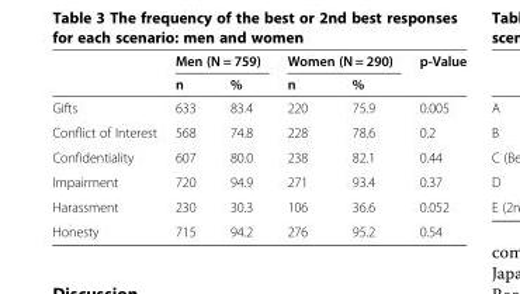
<table><thead><tr><td rowspan="2"></td><td colspan="2">Men (N = 759)</td><td colspan="2">Women (N = 290)</td><td rowspan="2">p-Value</td></tr><tr><td>n</td><td>%</td><td>n</td><td>%</td></tr></thead><tbody><tr><td>Gifts</td><td>633</td><td>83.4</td><td>220</td><td>75.9</td><td>0.005</td></tr><tr><td>Conflict of Interest</td><td>568</td><td>74.8</td><td>228</td><td>78.6</td><td>0.2</td></tr><tr><td>Confidentiality</td><td>607</td><td>80.0</td><td>238</td><td>82.1</td><td>0.44</td></tr><tr><td>Impairment</td><td>720</td><td>94.9</td><td>271</td><td>93.4</td><td>0.37</td></tr><tr><td>Harassment</td><td>230</td><td>30.3</td><td>106</td><td>36.6</td><td>0.052</td></tr><tr><td>Honesty</td><td>715</td><td>94.2</td><td>276</td><td>95.2</td><td>0.54</td></tr></tbody></table>